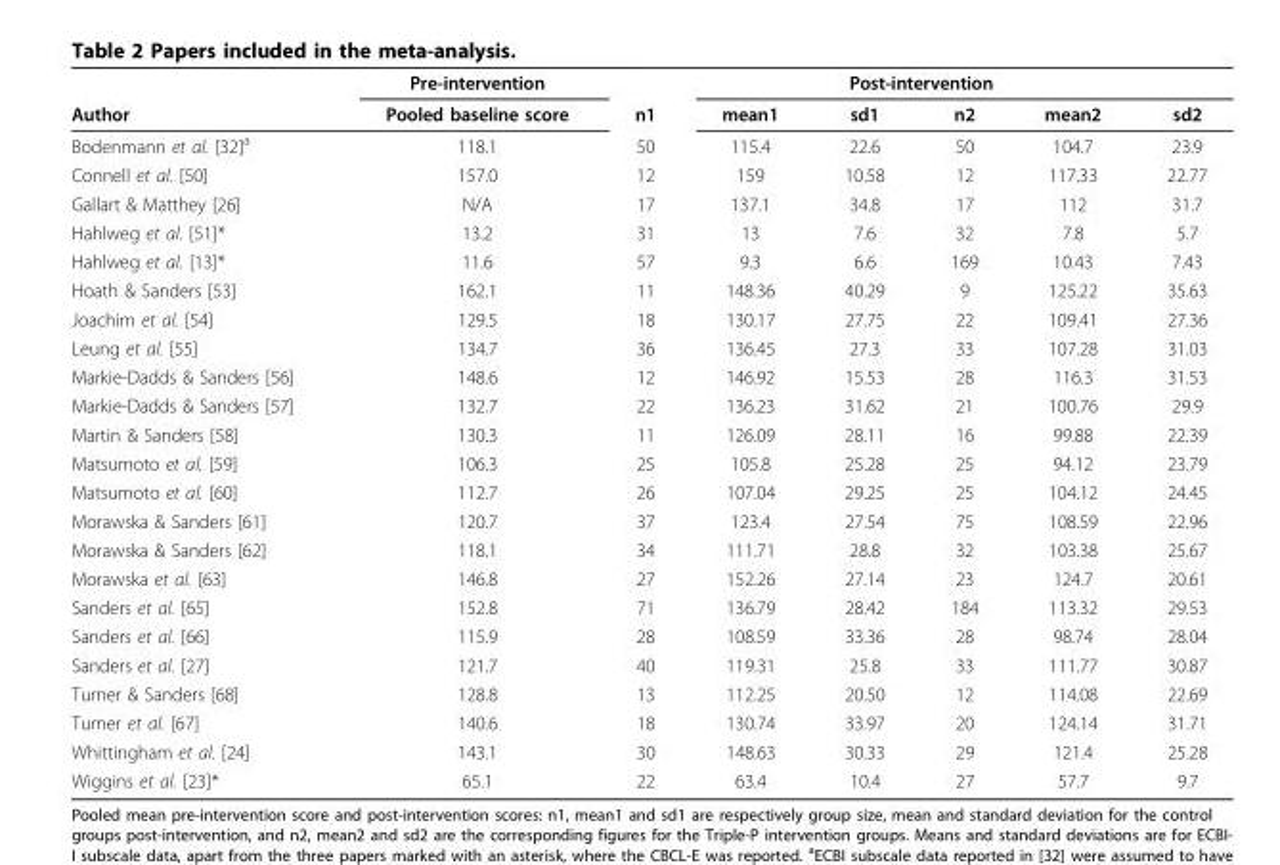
<table><thead><tr><td rowspan="2">Author</td><td rowspan="2">Pre-intervention Pooled baseline score</td><td colspan="6">Post-intervention</td></tr><tr><td>n1</td><td>mean1</td><td>sd1</td><td>n2</td><td>mean2</td><td>sd2</td></tr></thead><tbody><tr><td>Bodenmann et al. [32]<sup>a</sup></td><td>118.1</td><td>50</td><td>115.4</td><td>22.6</td><td>50</td><td>104.7</td><td>23.9</td></tr><tr><td>Connell et al. [50]</td><td>157.0</td><td>12</td><td>159</td><td>10.58</td><td>12</td><td>117.33</td><td>22.77</td></tr><tr><td>Gallart &amp; Matthey [26]</td><td>N/A</td><td>17</td><td>137.1</td><td>34.8</td><td>17</td><td>112</td><td>31.7</td></tr><tr><td>Hahlweg et al. [51]*</td><td>13.2</td><td>31</td><td>13</td><td>7.6</td><td>32</td><td>7.8</td><td>5.7</td></tr><tr><td>Hahlweg et al. [13]*</td><td>11.6</td><td>57</td><td>9.3</td><td>6.6</td><td>169</td><td>10.43</td><td>7.43</td></tr><tr><td>Hoath &amp; Sanders [53]</td><td>162.1</td><td>11</td><td>148.36</td><td>40.29</td><td>9</td><td>125.22</td><td>35.63</td></tr><tr><td>Joachim et al. [54]</td><td>129.5</td><td>18</td><td>130.17</td><td>27.75</td><td>22</td><td>109.41</td><td>27.36</td></tr><tr><td>Leung et al. [55]</td><td>134.7</td><td>36</td><td>136.45</td><td>27.3</td><td>33</td><td>107.28</td><td>31.03</td></tr><tr><td>Markie-Dadds &amp; Sanders [56]</td><td>148.6</td><td>12</td><td>146.92</td><td>15.53</td><td>28</td><td>116.3</td><td>31.53</td></tr><tr><td>Markie-Dadds &amp; Sanders [57]</td><td>132.7</td><td>22</td><td>136.23</td><td>31.62</td><td>21</td><td>100.76</td><td>29.9</td></tr><tr><td>Martin &amp; Sanders [58]</td><td>130.3</td><td>11</td><td>126.09</td><td>28.11</td><td>16</td><td>99.88</td><td>22.39</td></tr><tr><td>Matsumoto et al. [59]</td><td>106.3</td><td>25</td><td>105.8</td><td>25.28</td><td>25</td><td>94.12</td><td>23.79</td></tr><tr><td>Matsumoto et al. [60]</td><td>112.7</td><td>26</td><td>107.04</td><td>29.25</td><td>25</td><td>104.12</td><td>24.45</td></tr><tr><td>Morawska &amp; Sanders [61]</td><td>120.7</td><td>37</td><td>123.4</td><td>27.54</td><td>75</td><td>108.59</td><td>22.96</td></tr><tr><td>Morawska &amp; Sanders [62]</td><td>118.1</td><td>34</td><td>111.71</td><td>28.8</td><td>32</td><td>103.38</td><td>25.67</td></tr><tr><td>Morawska et al. [63]</td><td>146.8</td><td>27</td><td>152.26</td><td>27.14</td><td>23</td><td>124.7</td><td>20.61</td></tr><tr><td>Sanders et al. [65]</td><td>152.8</td><td>71</td><td>136.79</td><td>28.42</td><td>184</td><td>113.32</td><td>29.53</td></tr><tr><td>Sanders et al. [66]</td><td>115.9</td><td>28</td><td>108.59</td><td>33.36</td><td>28</td><td>98.74</td><td>28.04</td></tr><tr><td>Sanders et al. [27]</td><td>121.7</td><td>40</td><td>119.31</td><td>25.8</td><td>33</td><td>111.77</td><td>30.87</td></tr><tr><td>Turner &amp; Sanders [68]</td><td>128.8</td><td>13</td><td>112.25</td><td>20.50</td><td>12</td><td>114.08</td><td>22.69</td></tr><tr><td>Turner et al. [67]</td><td>140.6</td><td>18</td><td>130.74</td><td>33.97</td><td>20</td><td>124.14</td><td>31.71</td></tr><tr><td>Whittingham et al. [24]</td><td>143.1</td><td>30</td><td>148.63</td><td>30.33</td><td>29</td><td>121.4</td><td>25.28</td></tr><tr><td>Wiggins et al. [23]*</td><td>65.1</td><td>22</td><td>63.4</td><td>10.4</td><td>27</td><td>57.7</td><td>9.7</td></tr></tbody></table>